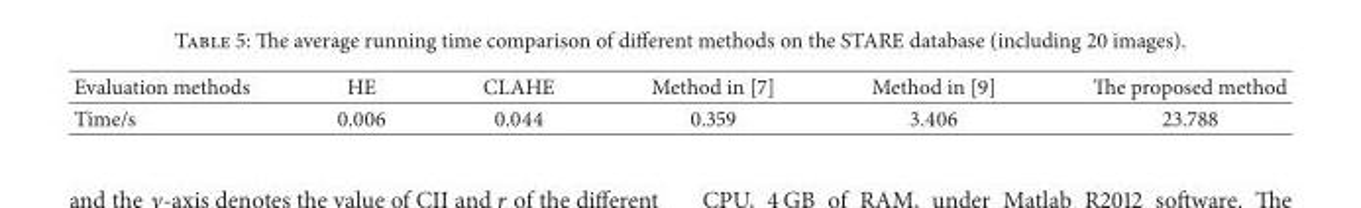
<table><thead><tr><td>Evaluation methods</td><td>HE</td><td>CLAHE</td><td>Method in [7]</td><td>Method in [9]</td><td>The proposed method</td></tr></thead><tbody><tr><td>Time/s</td><td>0.006</td><td>0.044</td><td>0.359</td><td>3.406</td><td>23.788</td></tr></tbody></table>